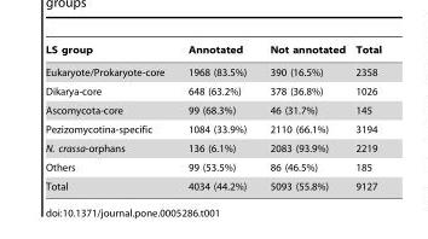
<table><thead><tr><td>LS group</td><td>Annotated</td><td>Not annotated</td><td>Total</td></tr></thead><tbody><tr><td>Eukaryote/Prokaryote-core</td><td>1968 (83.5%)</td><td>390 (16.5%)</td><td>2358</td></tr><tr><td>Dikarya-core</td><td>648 (63.2%)</td><td>378 (36.8%)</td><td>1026</td></tr><tr><td>Ascomycota-core</td><td>99 (68.3%)</td><td>46 (31.7%)</td><td>145</td></tr><tr><td>Pezizomycotina-specific</td><td>1084 (33.9%)</td><td>2110 (66.1%)</td><td>3194</td></tr><tr><td>N. crassa-orphans</td><td>136 (6.1%)</td><td>2083 (93.9%)</td><td>2219</td></tr><tr><td>Others</td><td>99 (53.5%)</td><td>86 (46.5%)</td><td>185</td></tr><tr><td>Total</td><td>4034 (44.2%)</td><td>5093 (55.8%)</td><td>9127</td></tr></tbody></table>